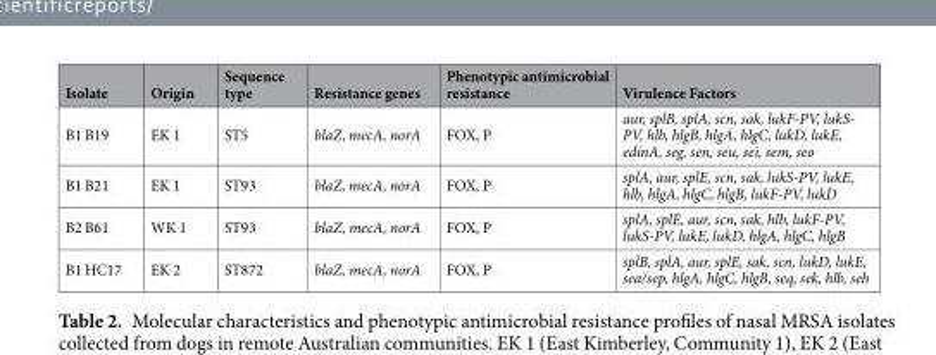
<table><thead><tr><td>Isolate</td><td>Origin</td><td>Sequence type</td><td>Resistance genes</td><td>Phenotypic antimicrobial resistance</td><td>Virulence Factors</td></tr></thead><tbody><tr><td>B1 B19</td><td>EK 1</td><td>ST5</td><td>blaZ, mecA, norA</td><td>FOX, P</td><td>aur, splB, splA, scn, sak, lukF-PV, lukS- PV, hlb, hlgB, hlgA, hlgC, lukD, lukE, edinA, seg, sen, seu, sei, sem, seo</td></tr><tr><td>B1 B21</td><td>EK 1</td><td>ST93</td><td>blaZ, mecA, norA</td><td>FOX, P</td><td>splA, aur, splE, scn, sak, lukS-PV, lukE, hlb, hlgA, hlgC, hlgB, lukF-PV, lukD</td></tr><tr><td>B2 B61</td><td>WK 1</td><td>ST93</td><td>blaZ, mecA, norA</td><td>FOX, P</td><td>splA, splE, aur, scn, sak, hlb, lukF-PV, lukS-PV, lukE, lukD, hlgA, hlgC, hlgB</td></tr><tr><td>B1 HC17</td><td>EK 2</td><td>ST872</td><td>blaZ, mecA, norA</td><td>FOX, P</td><td>splB, splA, aur, splE, sak, scn, lukD, lukE, sea/sep, hlgA, hlgC, hlgB, seq, sek, hlb, seh</td></tr></tbody></table>